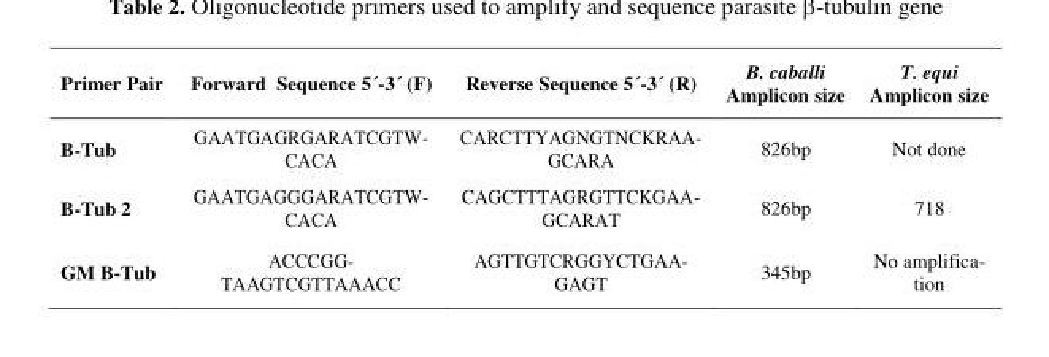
<table><thead><tr><td>Primer Pair</td><td>Forward Sequence 5´-3´ (F)</td><td>Reverse Sequence 5´-3´ (R)</td><td>B. caballi Amplicon size</td><td>T. equi Amplicon size</td></tr></thead><tbody><tr><td>B-Tub</td><td>GAATGAGRGARATCGTW- CACA</td><td>CARCTTYAGNGTNCKRAA- GCARA</td><td>826bp</td><td>Not done</td></tr><tr><td>B-Tub 2</td><td>GAATGAGGGARATCGTW- CACA</td><td>CAGCTTTAGRGTTCKGAA- GCARAT</td><td>826bp</td><td>718</td></tr><tr><td>GM B-Tub</td><td>ACCCGG- TAAGTCGTTAAACC</td><td>AGTTGTCRGGYCTGAA- GAGT</td><td>345bp</td><td>No amplifica- tion</td></tr></tbody></table>